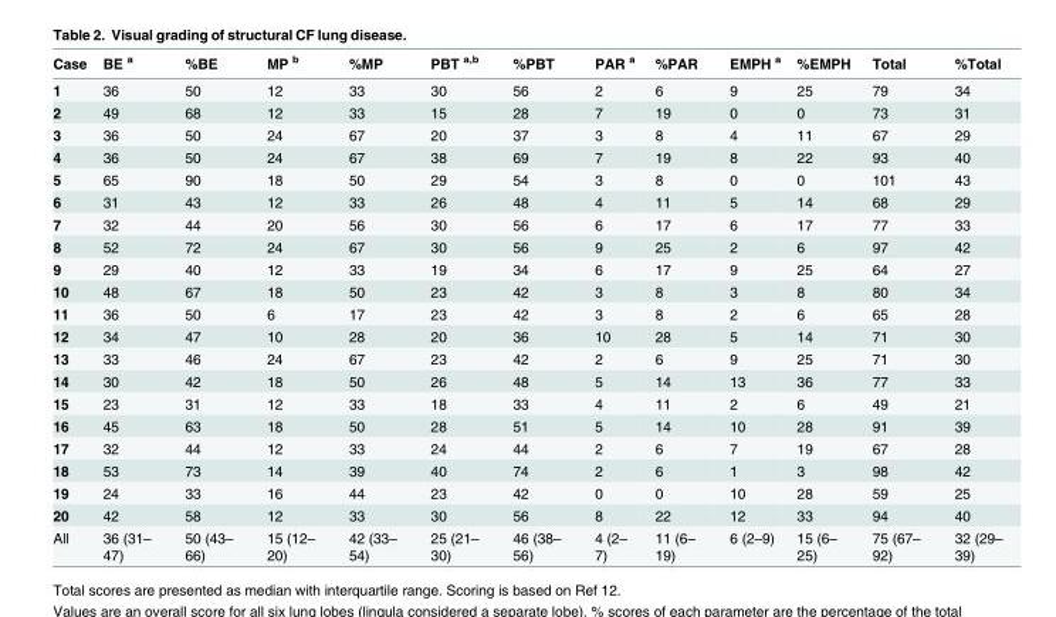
<table><thead><tr><td>Case</td><td>BE <sup>a</sup></td><td>%BE</td><td>MP <sup>b</sup></td><td>%MP</td><td>PBT <sup>a,b</sup></td><td>%PBT</td><td>PAR <sup>a</sup></td><td>%PAR</td><td>EMPH <sup>a</sup></td><td>%EMPH</td><td>Total</td><td>%Total</td></tr></thead><tbody><tr><td>1</td><td>36</td><td>50</td><td>12</td><td>33</td><td>30</td><td>56</td><td>2</td><td>6</td><td>9</td><td>25</td><td>79</td><td>34</td></tr><tr><td>2</td><td>49</td><td>68</td><td>12</td><td>33</td><td>15</td><td>28</td><td>7</td><td>19</td><td>0</td><td>0</td><td>73</td><td>31</td></tr><tr><td>3</td><td>36</td><td>50</td><td>24</td><td>67</td><td>20</td><td>37</td><td>3</td><td>8</td><td>4</td><td>11</td><td>67</td><td>29</td></tr><tr><td>4</td><td>36</td><td>50</td><td>24</td><td>67</td><td>38</td><td>69</td><td>7</td><td>19</td><td>8</td><td>22</td><td>93</td><td>40</td></tr><tr><td>5</td><td>65</td><td>90</td><td>18</td><td>50</td><td>29</td><td>54</td><td>3</td><td>8</td><td>0</td><td>0</td><td>101</td><td>43</td></tr><tr><td>6</td><td>31</td><td>43</td><td>12</td><td>33</td><td>26</td><td>48</td><td>4</td><td>11</td><td>5</td><td>14</td><td>68</td><td>29</td></tr><tr><td>7</td><td>32</td><td>44</td><td>20</td><td>56</td><td>30</td><td>56</td><td>6</td><td>17</td><td>6</td><td>17</td><td>77</td><td>33</td></tr><tr><td>8</td><td>52</td><td>72</td><td>24</td><td>67</td><td>30</td><td>56</td><td>9</td><td>25</td><td>2</td><td>6</td><td>97</td><td>42</td></tr><tr><td>9</td><td>29</td><td>40</td><td>12</td><td>33</td><td>19</td><td>34</td><td>6</td><td>17</td><td>9</td><td>25</td><td>64</td><td>27</td></tr><tr><td>10</td><td>48</td><td>67</td><td>18</td><td>50</td><td>23</td><td>42</td><td>3</td><td>8</td><td>3</td><td>8</td><td>80</td><td>34</td></tr><tr><td>11</td><td>36</td><td>50</td><td>6</td><td>17</td><td>23</td><td>42</td><td>3</td><td>8</td><td>2</td><td>6</td><td>65</td><td>28</td></tr><tr><td>12</td><td>34</td><td>47</td><td>10</td><td>28</td><td>20</td><td>36</td><td>10</td><td>28</td><td>5</td><td>14</td><td>71</td><td>30</td></tr><tr><td>13</td><td>33</td><td>46</td><td>24</td><td>67</td><td>23</td><td>42</td><td>2</td><td>6</td><td>9</td><td>25</td><td>71</td><td>30</td></tr><tr><td>14</td><td>30</td><td>42</td><td>18</td><td>50</td><td>26</td><td>48</td><td>5</td><td>14</td><td>13</td><td>36</td><td>77</td><td>33</td></tr><tr><td>15</td><td>23</td><td>31</td><td>12</td><td>33</td><td>18</td><td>33</td><td>4</td><td>11</td><td>2</td><td>6</td><td>49</td><td>21</td></tr><tr><td>16</td><td>45</td><td>63</td><td>18</td><td>50</td><td>28</td><td>51</td><td>5</td><td>14</td><td>10</td><td>28</td><td>91</td><td>39</td></tr><tr><td>17</td><td>32</td><td>44</td><td>12</td><td>33</td><td>24</td><td>44</td><td>2</td><td>6</td><td>7</td><td>19</td><td>67</td><td>28</td></tr><tr><td>18</td><td>53</td><td>73</td><td>14</td><td>39</td><td>40</td><td>74</td><td>2</td><td>6</td><td>1</td><td>3</td><td>98</td><td>42</td></tr><tr><td>19</td><td>24</td><td>33</td><td>16</td><td>44</td><td>23</td><td>42</td><td>0</td><td>0</td><td>10</td><td>28</td><td>59</td><td>25</td></tr><tr><td>20</td><td>42</td><td>58</td><td>12</td><td>33</td><td>30</td><td>56</td><td>8</td><td>22</td><td>12</td><td>33</td><td>94</td><td>40</td></tr><tr><td>All</td><td>36 (31– 47)</td><td>50 (43– 66)</td><td>15 (12– 20)</td><td>42 (33– 54)</td><td>25 (21– 30)</td><td>46 (38– 56)</td><td>4 (2– 7)</td><td>11 (6– 19)</td><td>6 (2–9)</td><td>15 (6– 25)</td><td>75 (67– 92)</td><td>32 (29– 39)</td></tr></tbody></table>